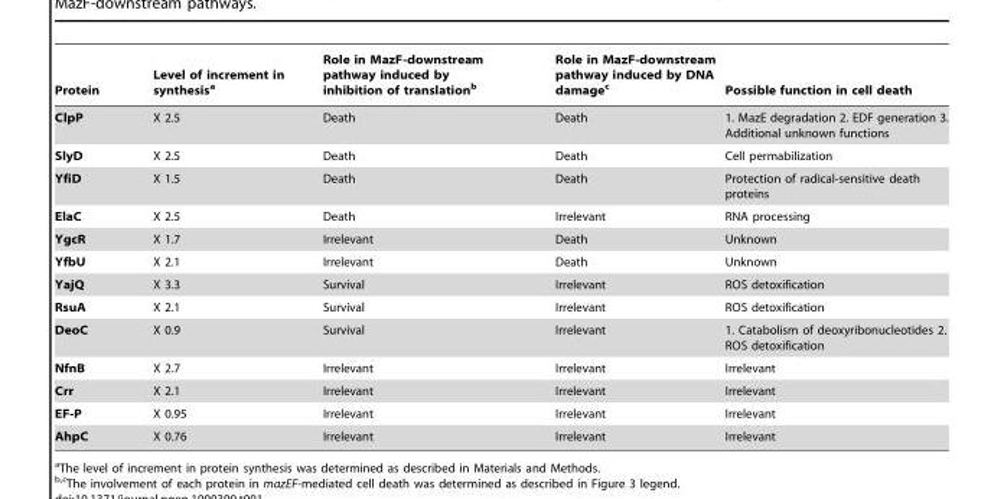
<table><thead><tr><td>Protein</td><td>Level of increment in synthesis<sup>a</sup></td><td>Role in MazF-downstream pathway induced by inhibition of translation<sup>b</sup></td><td>Role in MazF-downstream pathway induced by DNA damage<sup>c</sup></td><td>Possible function in cell death</td></tr></thead><tbody><tr><td>ClpP</td><td>X 2.5</td><td>Death</td><td>Death</td><td>1. MazE degradation 2. EDF generation 3. Additional unknown functions</td></tr><tr><td>SlyD</td><td>X 2.5</td><td>Death</td><td>Death</td><td>Cell permabilization</td></tr><tr><td>YfiD</td><td>X 1.5</td><td>Death</td><td>Death</td><td>Protection of radical-sensitive death proteins</td></tr><tr><td>ElaC</td><td>X 2.5</td><td>Death</td><td>Irrelevant</td><td>RNA processing</td></tr><tr><td>YgcR</td><td>X 1.7</td><td>Irrelevant</td><td>Death</td><td>Unknown</td></tr><tr><td>YfbU</td><td>X 2.1</td><td>Irrelevant</td><td>Death</td><td>Unknown</td></tr><tr><td>YajQ</td><td>X 3.3</td><td>Survival</td><td>Irrelevant</td><td>ROS detoxification</td></tr><tr><td>RsuA</td><td>X 2.1</td><td>Survival</td><td>Irrelevant</td><td>ROS detoxification</td></tr><tr><td>DeoC</td><td>X 0.9</td><td>Survival</td><td>Irrelevant</td><td>1. Catabolism of deoxyribonucleotides 2. ROS detoxification</td></tr><tr><td>NfnB</td><td>X 2.7</td><td>Irrelevant</td><td>Irrelevant</td><td>Irrelevant</td></tr><tr><td>Crr</td><td>X 2.1</td><td>Irrelevant</td><td>Irrelevant</td><td>Irrelevant</td></tr><tr><td>EF-P</td><td>X 0.95</td><td>Irrelevant</td><td>Irrelevant</td><td>Irrelevant</td></tr><tr><td>AhpC</td><td>X 0.76</td><td>Irrelevant</td><td>Irrelevant</td><td>Irrelevant</td></tr></tbody></table>